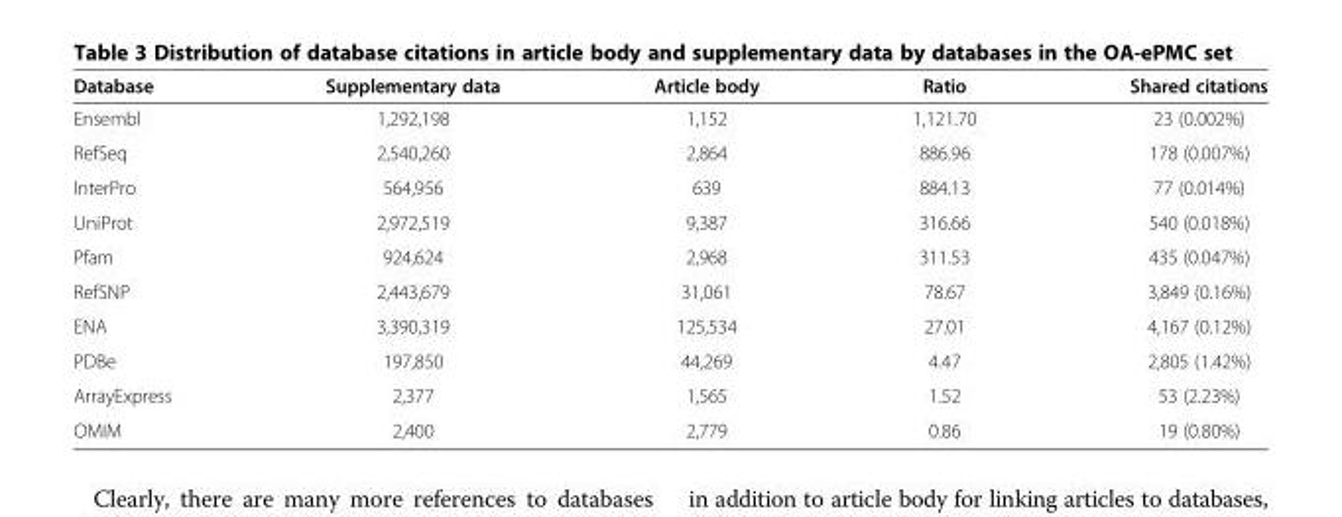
<table><thead><tr><td>Database</td><td>Supplementary data</td><td>Article body</td><td>Ratio</td><td>Shared citations</td></tr></thead><tbody><tr><td>Ensembl</td><td>1,292,198</td><td>1,152</td><td>1,121.70</td><td>23 (0.002%)</td></tr><tr><td>RefSeq</td><td>2,540,260</td><td>2,864</td><td>886.96</td><td>178 (0.007%)</td></tr><tr><td>InterPro</td><td>564,956</td><td>639</td><td>884.13</td><td>77 (0.014%)</td></tr><tr><td>UniProt</td><td>2,972,519</td><td>9,387</td><td>316.66</td><td>540 (0.018%)</td></tr><tr><td>Pfam</td><td>924,624</td><td>2,968</td><td>311.53</td><td>435 (0.047%)</td></tr><tr><td>RefSNP</td><td>2,443,679</td><td>31,061</td><td>78.67</td><td>3,849 (0.16%)</td></tr><tr><td>ENA</td><td>3,390,319</td><td>125,534</td><td>27.01</td><td>4,167 (0.12%)</td></tr><tr><td>PDBe</td><td>197,850</td><td>44,269</td><td>4.47</td><td>2,805 (1.42%)</td></tr><tr><td>ArrayExpress</td><td>2,377</td><td>1,565</td><td>1.52</td><td>53 (2.23%)</td></tr><tr><td>OMIM</td><td>2,400</td><td>2,779</td><td>0.86</td><td>19 (0.80%)</td></tr></tbody></table>